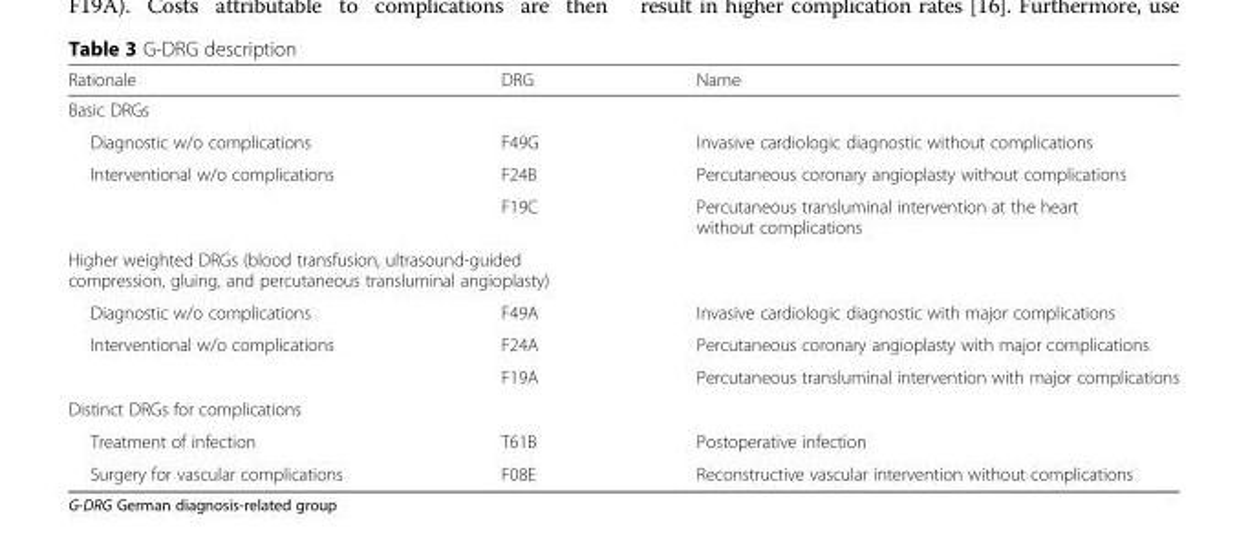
<table><thead><tr><td>Rationale</td><td>DRG</td><td>Name</td></tr></thead><tbody><tr><td colspan="3">Basic DRGs</td></tr><tr><td>Diagnostic w/o complications</td><td>F49G</td><td>Invasive cardiologic diagnostic without complications</td></tr><tr><td rowspan="2">Interventional w/o complications</td><td>F24B</td><td>Percutaneous coronary angioplasty without complications</td></tr><tr><td>F19C</td><td>Percutaneous transluminal intervention at the heart without complications</td></tr><tr><td colspan="3">Higher weighted DRGs (blood transfusion, ultrasound-guided compression, gluing, and percutaneous transluminal angioplasty)</td></tr><tr><td>Diagnostic w/o complications</td><td>F49A</td><td>Invasive cardiologic diagnostic with major complications</td></tr><tr><td rowspan="2">Interventional w/o complications</td><td>F24A</td><td>Percutaneous coronary angioplasty with major complications</td></tr><tr><td>F19A</td><td>Percutaneous transluminal intervention with major complications</td></tr><tr><td colspan="3">Distinct DRGs for complications</td></tr><tr><td>Treatment of infection</td><td>T61B</td><td>Postoperative infection</td></tr><tr><td>Surgery for vascular complications</td><td>F08E</td><td>Reconstructive vascular intervention without complications</td></tr></tbody></table>